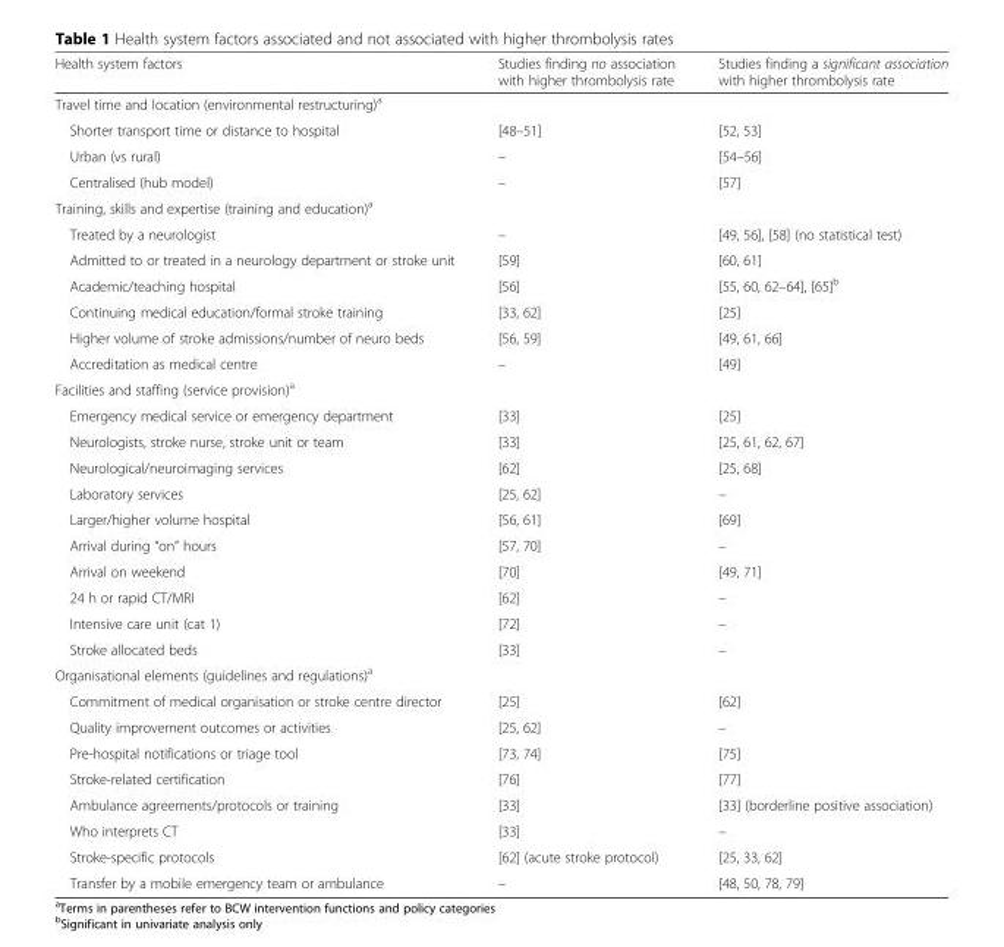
<table><thead><tr><td>Health system factors</td><td>Studies finding no association with higher thrombolysis rate</td><td>Studies finding a significant association with higher thrombolysis rate</td></tr></thead><tbody><tr><td colspan="3">Travel time and location (environmental restructuring)<sup>a</sup></td></tr><tr><td>Shorter transport time or distance to hospital</td><td>[48–51]</td><td>[52, 53]</td></tr><tr><td>Urban (vs rural)</td><td>–</td><td>[54–56]</td></tr><tr><td>Centralised (hub model)</td><td>–</td><td>[57]</td></tr><tr><td colspan="3">Training, skills and expertise (training and education)<sup>a</sup></td></tr><tr><td>Treated by a neurologist</td><td>–</td><td>[49, 56], [58] (no statistical test)</td></tr><tr><td>Admitted to or treated in a neurology department or stroke unit</td><td>[59]</td><td>[60, 61]</td></tr><tr><td>Academic/teaching hospital</td><td>[56]</td><td>[55, 60, 62–64], [65]<sup>b</sup></td></tr><tr><td>Continuing medical education/formal stroke training</td><td>[33, 62]</td><td>[25]</td></tr><tr><td>Higher volume of stroke admissions/number of neuro beds</td><td>[56, 59]</td><td>[49, 61, 66]</td></tr><tr><td>Accreditation as medical centre</td><td>–</td><td>[49]</td></tr><tr><td colspan="3">Facilities and staffing (service provision)<sup>a</sup></td></tr><tr><td>Emergency medical service or emergency department</td><td>[33]</td><td>[25]</td></tr><tr><td>Neurologists, stroke nurse, stroke unit or team</td><td>[33]</td><td>[25, 61, 62, 67]</td></tr><tr><td>Neurological/neuroimaging services</td><td>[62]</td><td>[25, 68]</td></tr><tr><td>Laboratory services</td><td>[25, 62]</td><td>–</td></tr><tr><td>Larger/higher volume hospital</td><td>[56, 61]</td><td>[69]</td></tr><tr><td>Arrival during “on” hours</td><td>[57, 70]</td><td>–</td></tr><tr><td>Arrival on weekend</td><td>[70]</td><td>[49, 71]</td></tr><tr><td>24 h or rapid CT/MRI</td><td>[62]</td><td>–</td></tr><tr><td>Intensive care unit (cat 1)</td><td>[72]</td><td>–</td></tr><tr><td>Stroke allocated beds</td><td>[33]</td><td>–</td></tr><tr><td colspan="3">Organisational elements (guidelines and regulations)<sup>a</sup></td></tr><tr><td>Commitment of medical organisation or stroke centre director</td><td>[25]</td><td>[62]</td></tr><tr><td>Quality improvement outcomes or activities</td><td>[25, 62]</td><td>–</td></tr><tr><td>Pre-hospital notifications or triage tool</td><td>[73, 74]</td><td>[75]</td></tr><tr><td>Stroke-related certification</td><td>[76]</td><td>[77]</td></tr><tr><td>Ambulance agreements/protocols or training</td><td>[33]</td><td>[33] (borderline positive association)</td></tr><tr><td>Who interprets CT</td><td>[33]</td><td>–</td></tr><tr><td>Stroke-specific protocols</td><td>[62] (acute stroke protocol)</td><td>[25, 33, 62]</td></tr><tr><td>Transfer by a mobile emergency team or ambulance</td><td>–</td><td>[48, 50, 78, 79]</td></tr></tbody></table>